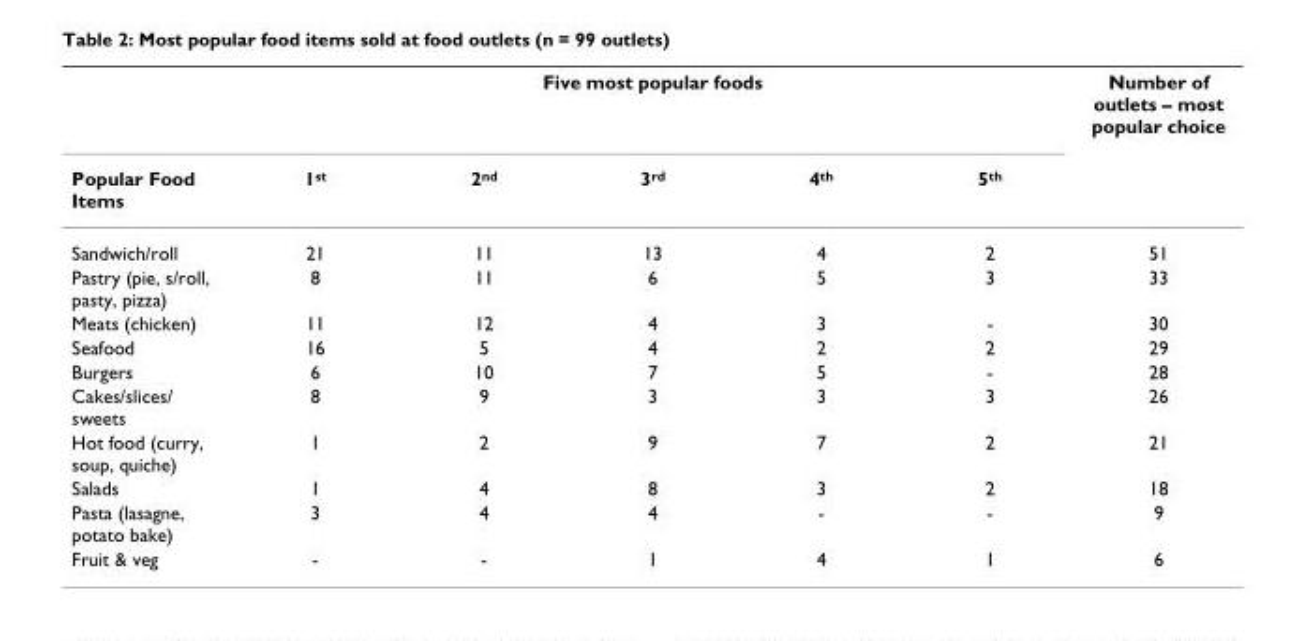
<table><thead><tr><td rowspan="2">Popular Food Items</td><td colspan="5">Five most popular foods</td><td rowspan="2">Number of outlets – most popular choice</td></tr><tr><td>1<sup>st</sup></td><td>2<sup>nd</sup></td><td>3<sup>rd</sup></td><td>4<sup>th</sup></td><td>5<sup>th</sup></td></tr></thead><tbody><tr><td>Sandwich/roll</td><td>21</td><td>11</td><td>13</td><td>4</td><td>2</td><td>51</td></tr><tr><td>Pastry (pie, s/roll, pasty, pizza)</td><td>8</td><td>11</td><td>6</td><td>5</td><td>3</td><td>33</td></tr><tr><td>Meats (chicken)</td><td>11</td><td>12</td><td>4</td><td>3</td><td>-</td><td>30</td></tr><tr><td>Seafood</td><td>16</td><td>5</td><td>4</td><td>2</td><td>2</td><td>29</td></tr><tr><td>Burgers</td><td>6</td><td>10</td><td>7</td><td>5</td><td>-</td><td>28</td></tr><tr><td>Cakes/slices/ sweets</td><td>8</td><td>9</td><td>3</td><td>3</td><td>3</td><td>26</td></tr><tr><td>Hot food (curry, soup, quiche)</td><td>1</td><td>2</td><td>9</td><td>7</td><td>2</td><td>21</td></tr><tr><td>Salads</td><td>1</td><td>4</td><td>8</td><td>3</td><td>2</td><td>18</td></tr><tr><td>Pasta (lasagne, potato bake)</td><td>3</td><td>4</td><td>4</td><td>-</td><td>-</td><td>9</td></tr><tr><td>Fruit &amp; veg</td><td>-</td><td>-</td><td>1</td><td>4</td><td>1</td><td>6</td></tr></tbody></table>